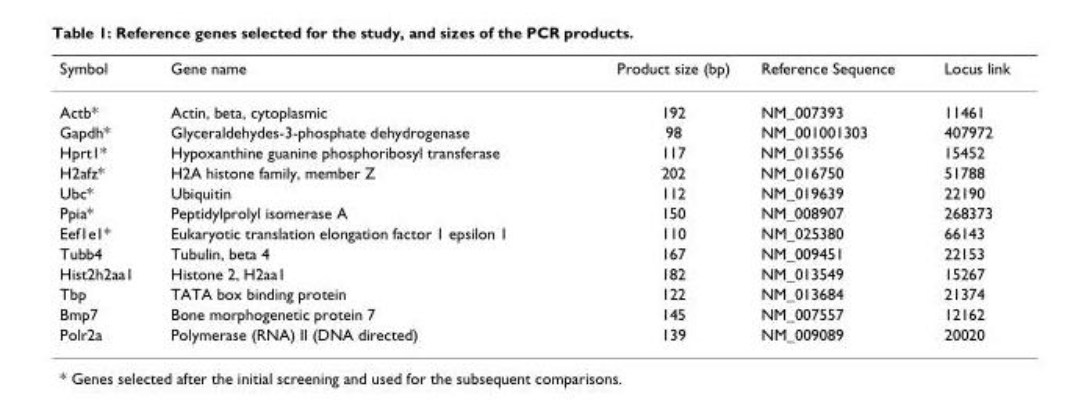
<table><thead><tr><td>Symbol</td><td>Gene name</td><td>Product size (bp)</td><td>Reference Sequence</td><td>Locus link</td></tr></thead><tbody><tr><td>Actb*</td><td>Actin, beta, cytoplasmic</td><td>192</td><td>NM_007393</td><td>11461</td></tr><tr><td>Gapdh*</td><td>Glyceraldehydes-3-phosphate dehydrogenase</td><td>98</td><td>NM_001001303</td><td>407972</td></tr><tr><td>Hprt1*</td><td>Hypoxanthine guanine phosphoribosyl transferase</td><td>117</td><td>NM_013556</td><td>15452</td></tr><tr><td>H2afz*</td><td>H2A histone family, member Z</td><td>202</td><td>NM_016750</td><td>51788</td></tr><tr><td>Ubc*</td><td>Ubiquitin</td><td>112</td><td>NM_019639</td><td>22190</td></tr><tr><td>Ppia*</td><td>Peptidylprolyl isomerase A</td><td>150</td><td>NM_008907</td><td>268373</td></tr><tr><td>Eef1e1*</td><td>Eukaryotic translation elongation factor 1 epsilon 1</td><td>110</td><td>NM_025380</td><td>66143</td></tr><tr><td>Tubb4</td><td>Tubulin, beta 4</td><td>167</td><td>NM_009451</td><td>22153</td></tr><tr><td>Hist2h2aa1</td><td>Histone 2, H2aa1</td><td>182</td><td>NM_013549</td><td>15267</td></tr><tr><td>Tbp</td><td>TATA box binding protein</td><td>122</td><td>NM_013684</td><td>21374</td></tr><tr><td>Bmp7</td><td>Bone morphogenetic protein 7</td><td>145</td><td>NM_007557</td><td>12162</td></tr><tr><td>Polr2a</td><td>Polymerase (RNA) II (DNA directed)</td><td>139</td><td>NM_009089</td><td>20020</td></tr></tbody></table>